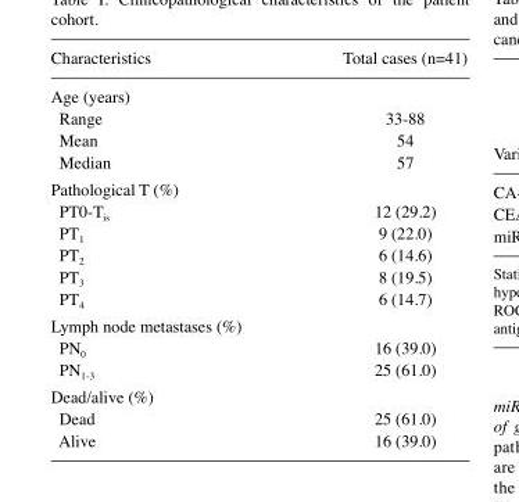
<table><thead><tr><td>Characteristics</td><td>Total cases (n=41)</td></tr></thead><tbody><tr><td colspan="2">Age (years)</td></tr><tr><td>Range</td><td>33-88</td></tr><tr><td>Mean</td><td>54</td></tr><tr><td>Median</td><td>57</td></tr><tr><td colspan="2">Pathological T (%)</td></tr><tr><td>PT0-T<sub>is</sub></td><td>12 (29.2)</td></tr><tr><td>PT<sub>1</sub></td><td>9 (22.0)</td></tr><tr><td>PT<sub>2</sub></td><td>6 (14.6)</td></tr><tr><td>PT<sub>3</sub></td><td>8 (19.5)</td></tr><tr><td>PT<sub>4</sub></td><td>6 (14.7)</td></tr><tr><td colspan="2">Lymph node metastases (%)</td></tr><tr><td>PN<sub>0</sub></td><td>16 (39.0)</td></tr><tr><td>PN<sub>1-3</sub></td><td>25 (61.0)</td></tr><tr><td colspan="2">Dead/alive (%)</td></tr><tr><td>Dead</td><td>25 (61.0)</td></tr><tr><td>Alive</td><td>16 (39.0)</td></tr></tbody></table>